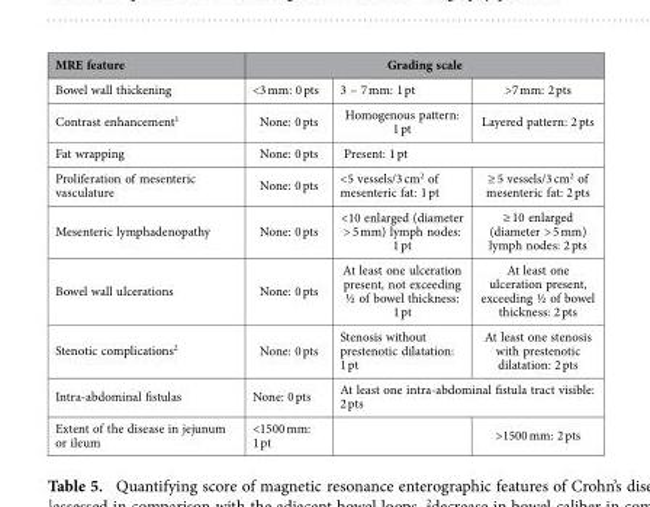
<table><thead><tr><td rowspan="2">MRE feature Bowel wall thickening</td><td colspan="3">Grading scale</td></tr><tr><td>&lt;3 mm: 0 pts</td><td>3 – 7 mm: 1 pt</td><td>&gt;7 mm: 2 pts</td></tr></thead><tbody><tr><td>Contrast enhancement<sup>1</sup></td><td>None: 0 pts</td><td>Homogenous pattern: 1 pt</td><td>Layered pattern: 2 pts</td></tr><tr><td>Fat wrapping</td><td>None: 0 pts</td><td colspan="2">Present: 1 pt</td></tr><tr><td>Proliferation of mesenteric vasculature</td><td>None: 0 pts</td><td>&lt;5 vessels/3 cm<sup>2</sup> of mesenteric fat: 1 pt</td><td>≥ 5 vessels/3 cm<sup>2</sup> of mesenteric fat: 2 pts</td></tr><tr><td>Mesenteric lymphadenopathy</td><td>None: 0 pts</td><td>&lt;10 enlarged (diameter &gt; 5 mm) lymph nodes: 1 pt</td><td>≥ 10 enlarged (diameter &gt; 5 mm) lymph nodes: 2 pts</td></tr><tr><td>Bowel wall ulcerations</td><td>None: 0 pts</td><td>At least one ulceration present, not exceeding ½ of bowel thickness: 1 pt</td><td>At least one ulceration present, exceeding ½ of bowel thickness: 2 pts</td></tr><tr><td>Stenotic complications<sup>2</sup></td><td>None: 0 pts</td><td>Stenosis without prestenotic dilatation: 1 pt</td><td>At least one stenosis with prestenotic dilatation: 2 pts</td></tr><tr><td>Intra-abdominal fistulas</td><td>None: 0 pts</td><td colspan="2">At least one intra-abdominal fistula tract visible: 2 pts</td></tr><tr><td>Extent of the disease in jejunum or ileum</td><td>&lt;1500 mm: 1 pt</td><td></td><td>&gt;1500 mm: 2 pts</td></tr></tbody></table>